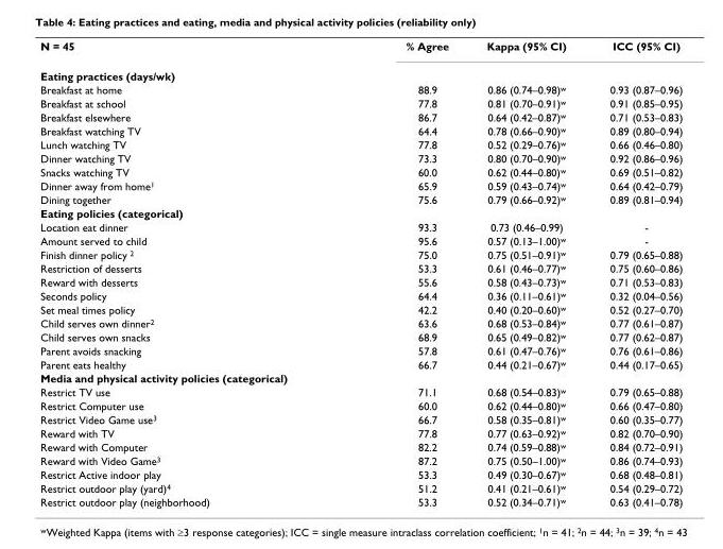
<table><tbody><tr><td>N = 45</td><td>% Agree</td><td>Kappa (95% CI)</td><td>ICC (95% CI)</td></tr><tr><td colspan="4">Eating practices (days/wk)</td></tr><tr><td>Breakfast at home</td><td>88.9</td><td>0.86 (0.74–0.98)<sup>w</sup></td><td>0.93 (0.87–0.96)</td></tr><tr><td>Breakfast at school</td><td>77.8</td><td>0.81 (0.70–0.91)<sup>w</sup></td><td>0.91 (0.85–0.95)</td></tr><tr><td>Breakfast elsewhere</td><td>86.7</td><td>0.64 (0.42–0.87)<sup>w</sup></td><td>0.71 (0.53–0.83)</td></tr><tr><td>Breakfast watching TV</td><td>64.4</td><td>0.78 (0.66–0.90)<sup>w</sup></td><td>0.89 (0.80–0.94)</td></tr><tr><td>Lunch watching TV</td><td>77.8</td><td>0.52 (0.29–0.76)<sup>w</sup></td><td>0.66 (0.46–0.80)</td></tr><tr><td>Dinner watching TV</td><td>73.3</td><td>0.80 (0.70–0.90)<sup>w</sup></td><td>0.92 (0.86–0.96)</td></tr><tr><td>Snacks watching TV</td><td>60.0</td><td>0.62 (0.44–0.80)<sup>w</sup></td><td>0.69 (0.51–0.82)</td></tr><tr><td>Dinner away from home<sup>1</sup></td><td>65.9</td><td>0.59 (0.43–0.74)<sup>w</sup></td><td>0.64 (0.42–0.79)</td></tr><tr><td>Dining together</td><td>75.6</td><td>0.79 (0.66–0.92)<sup>w</sup></td><td>0.89 (0.81–0.94)</td></tr><tr><td colspan="4">Eating policies (categorical)</td></tr><tr><td>Location eat dinner</td><td>93.3</td><td>0.73 (0.46–0.99)</td><td>-</td></tr><tr><td>Amount served to child</td><td>95.6</td><td>0.57 (0.13–1.00)<sup>w</sup></td><td>-</td></tr><tr><td>Finish dinner policy <sup>2</sup></td><td>75.0</td><td>0.75 (0.51–0.91)<sup>w</sup></td><td>0.79 (0.65–0.88)</td></tr><tr><td>Restriction of desserts</td><td>53.3</td><td>0.61 (0.46–0.77)<sup>w</sup></td><td>0.75 (0.60–0.86)</td></tr><tr><td>Reward with desserts</td><td>55.6</td><td>0.58 (0.43–0.73)<sup>w</sup></td><td>0.71 (0.53–0.83)</td></tr><tr><td>Seconds policy</td><td>64.4</td><td>0.36 (0.11–0.61)<sup>w</sup></td><td>0.32 (0.04–0.56)</td></tr><tr><td>Set meal times policy</td><td>42.2</td><td>0.40 (0.20–0.60)<sup>w</sup></td><td>0.52 (0.27–0.70)</td></tr><tr><td>Child serves own dinner<sup>2</sup></td><td>63.6</td><td>0.68 (0.53–0.84)<sup>w</sup></td><td>0.77 (0.61–0.87)</td></tr><tr><td>Child serves own snacks</td><td>68.9</td><td>0.65 (0.49–0.82)<sup>w</sup></td><td>0.77 (0.62–0.87)</td></tr><tr><td>Parent avoids snacking</td><td>57.8</td><td>0.61 (0.47–0.76)<sup>w</sup></td><td>0.76 (0.61–0.86)</td></tr><tr><td>Parent eats healthy</td><td>66.7</td><td>0.44 (0.21–0.67)<sup>w</sup></td><td>0.44 (0.17–0.65)</td></tr><tr><td colspan="4">Media and physical activity policies (categorical)</td></tr><tr><td>Restrict TV use</td><td>71.1</td><td>0.68 (0.54–0.83)<sup>w</sup></td><td>0.79 (0.65–0.88)</td></tr><tr><td>Restrict Computer use</td><td>60.0</td><td>0.62 (0.44–0.80)<sup>w</sup></td><td>0.66 (0.47–0.80)</td></tr><tr><td>Restrict Video Game use<sup>3</sup></td><td>66.7</td><td>0.58 (0.35–0.81)<sup>w</sup></td><td>0.60 (0.35–0.77)</td></tr><tr><td>Reward with TV</td><td>77.8</td><td>0.77 (0.63–0.92)<sup>w</sup></td><td>0.82 (0.70–0.90)</td></tr><tr><td>Reward with Computer</td><td>82.2</td><td>0.74 (0.59–0.88)<sup>w</sup></td><td>0.84 (0.72–0.91)</td></tr><tr><td>Reward with Video Game<sup>3</sup></td><td>87.2</td><td>0.75 (0.50–1.00)<sup>w</sup></td><td>0.86 (0.74–0.93)</td></tr><tr><td>Restrict Active indoor play</td><td>53.3</td><td>0.49 (0.30–0.67)<sup>w</sup></td><td>0.68 (0.48–0.81)</td></tr><tr><td>Restrict outdoor play (yard)<sup>4</sup></td><td>51.2</td><td>0.41 (0.21–0.61)<sup>w</sup></td><td>0.54 (0.29–0.72)</td></tr><tr><td>Restrict outdoor play (neighborhood)</td><td>53.3</td><td>0.52 (0.34–0.71)<sup>w</sup></td><td>0.63 (0.41–0.78)</td></tr></tbody></table>